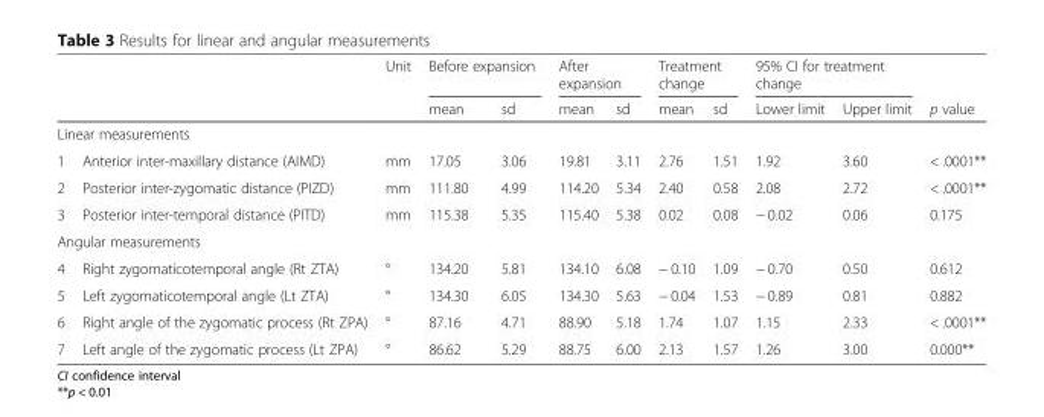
<table><thead><tr><td rowspan="2"></td><td rowspan="2"></td><td rowspan="2">Unit</td><td colspan="2">Before expansion</td><td colspan="2">After expansion</td><td colspan="2">Treatment change</td><td colspan="2">95% CI for treatment change</td><td rowspan="2">p value</td></tr><tr><td>mean</td><td>sd</td><td>mean</td><td>sd</td><td>mean</td><td>sd</td><td>Lower limit</td><td>Upper limit</td></tr></thead><tbody><tr><td colspan="12">Linear measurements</td></tr><tr><td>1</td><td>Anterior inter-maxillary distance (AIMD)</td><td>mm</td><td>17.05</td><td>3.06</td><td>19.81</td><td>3.11</td><td>2.76</td><td>1.51</td><td>1.92</td><td>3.60</td><td>&lt; .0001**</td></tr><tr><td>2</td><td>Posterior inter-zygomatic distance (PIZD)</td><td>mm</td><td>111.80</td><td>4.99</td><td>114.20</td><td>5.34</td><td>2.40</td><td>0.58</td><td>2.08</td><td>2.72</td><td>&lt; .0001**</td></tr><tr><td>3</td><td>Posterior inter-temporal distance (PITD)</td><td>mm</td><td>115.38</td><td>5.35</td><td>115.40</td><td>5.38</td><td>0.02</td><td>0.08</td><td>− 0.02</td><td>0.06</td><td>0.175</td></tr><tr><td colspan="12">Angular measurements</td></tr><tr><td>4</td><td>Right zygomaticotemporal angle (Rt ZTA)</td><td>°</td><td>134.20</td><td>5.81</td><td>134.10</td><td>6.08</td><td>− 0.10</td><td>1.09</td><td>− 0.70</td><td>0.50</td><td>0.612</td></tr><tr><td>5</td><td>Left zygomaticotemporal angle (Lt ZTA)</td><td>°</td><td>134.30</td><td>6.05</td><td>134.30</td><td>5.63</td><td>− 0.04</td><td>1.53</td><td>− 0.89</td><td>0.81</td><td>0.882</td></tr><tr><td>6</td><td>Right angle of the zygomatic process (Rt ZPA)</td><td>°</td><td>87.16</td><td>4.71</td><td>88.90</td><td>5.18</td><td>1.74</td><td>1.07</td><td>1.15</td><td>2.33</td><td>&lt; .0001**</td></tr><tr><td>7</td><td>Left angle of the zygomatic process (Lt ZPA)</td><td>°</td><td>86.62</td><td>5.29</td><td>88.75</td><td>6.00</td><td>2.13</td><td>1.57</td><td>1.26</td><td>3.00</td><td>0.000**</td></tr></tbody></table>